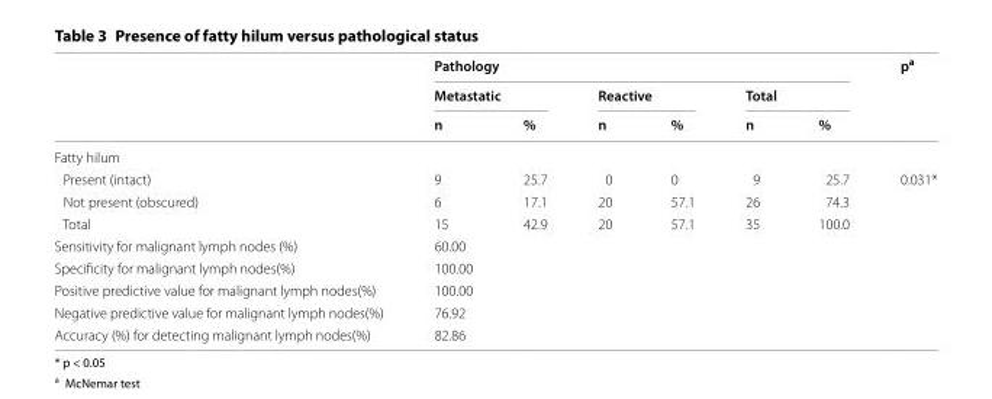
<table><thead><tr><td rowspan="3"></td><td colspan="6">Pathology</td><td rowspan="3">p<sup>a</sup></td></tr><tr><td colspan="2">Metastatic</td><td colspan="2">Reactive</td><td colspan="2">Total</td></tr><tr><td>n</td><td>%</td><td>n</td><td>%</td><td>n</td><td>%</td></tr></thead><tbody><tr><td colspan="8">Fatty hilum</td></tr><tr><td>Present (intact)</td><td>9</td><td>25.7</td><td>0</td><td>0</td><td>9</td><td>25.7</td><td>0.031*</td></tr><tr><td>Not present (obscured)</td><td>6</td><td>17.1</td><td>20</td><td>57.1</td><td>26</td><td>74.3</td><td></td></tr><tr><td>Total</td><td>15</td><td>42.9</td><td>20</td><td>57.1</td><td>35</td><td>100.0</td><td></td></tr><tr><td>Sensitivity for malignant lymph nodes (%)</td><td>60.00</td><td></td><td></td><td></td><td></td><td></td><td></td></tr><tr><td>Specificity for malignant lymph nodes(%)</td><td>100.00</td><td></td><td></td><td></td><td></td><td></td><td></td></tr><tr><td>Positive predictive value for malignant lymph nodes(%)</td><td>100.00</td><td></td><td></td><td></td><td></td><td></td><td></td></tr><tr><td>Negative predictive value for malignant lymph nodes(%)</td><td>76.92</td><td></td><td></td><td></td><td></td><td></td><td></td></tr><tr><td>Accuracy (%) for detecting malignant lymph nodes(%)</td><td>82.86</td><td></td><td></td><td></td><td></td><td></td><td></td></tr></tbody></table>